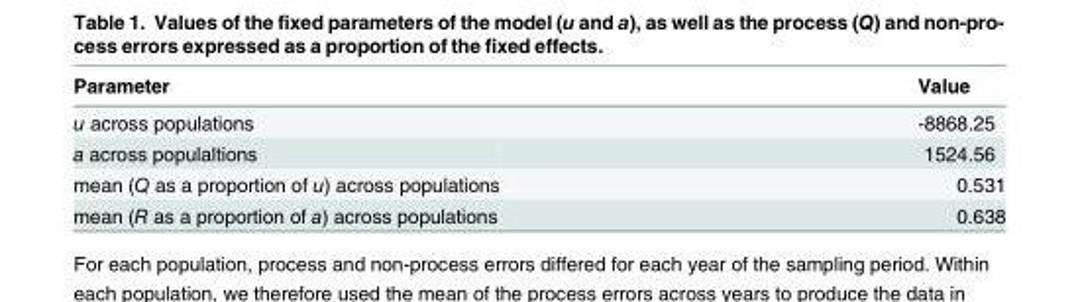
<table><thead><tr><td>Parameter</td><td>Value</td></tr></thead><tbody><tr><td>u across populations</td><td>-8868.25</td></tr><tr><td>a across populaltions</td><td>1524.56</td></tr><tr><td>mean (Q as a proportion of u) across populations</td><td>0.531</td></tr><tr><td>mean (R as a proportion of a) across populations</td><td>0.638</td></tr></tbody></table>